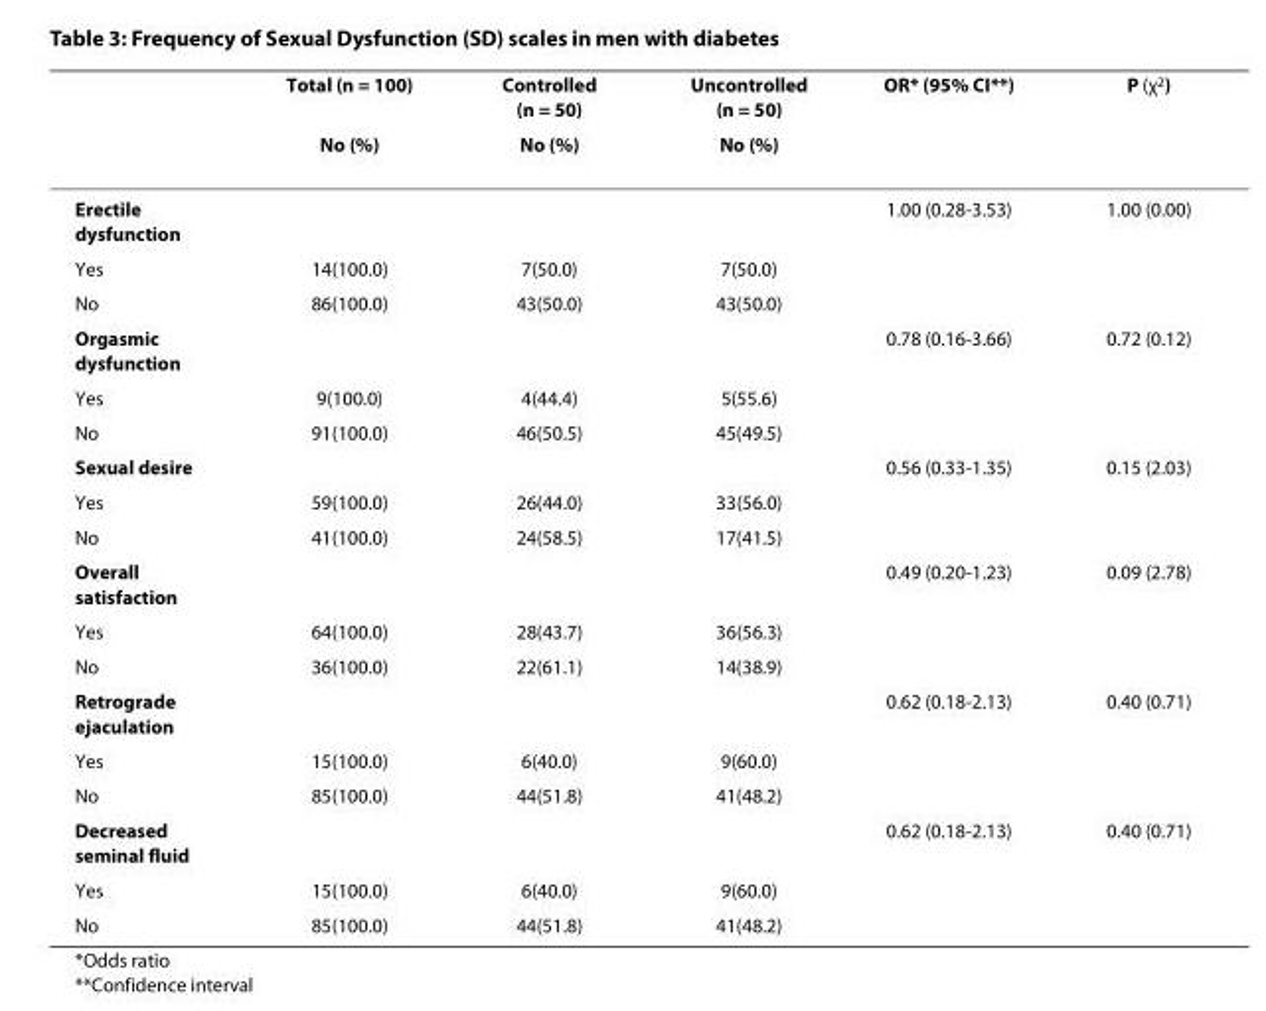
<table><thead><tr><td rowspan="2"></td><td rowspan="2">Total (n = 100) No (%)</td><td rowspan="2">Controlled (n = 50) No (%)</td><td rowspan="2">Uncontrolled (n = 50) No (%)</td><td rowspan="2">OR* (95% CI**)</td><td rowspan="2">P (χ<sup>2</sup>)</td></tr><tr></tr></thead><tbody><tr><td>Erectile dysfunction</td><td></td><td></td><td></td><td>1.00 (0.28-3.53)</td><td>1.00 (0.00)</td></tr><tr><td>Yes</td><td>14(100.0)</td><td>7(50.0)</td><td>7(50.0)</td><td></td><td></td></tr><tr><td>No</td><td>86(100.0)</td><td>43(50.0)</td><td>43(50.0)</td><td></td><td></td></tr><tr><td>Orgasmic dysfunction</td><td></td><td></td><td></td><td>0.78 (0.16-3.66)</td><td>0.72 (0.12)</td></tr><tr><td>Yes</td><td>9(100.0)</td><td>4(44.4)</td><td>5(55.6)</td><td></td><td></td></tr><tr><td>No</td><td>91(100.0)</td><td>46(50.5)</td><td>45(49.5)</td><td></td><td></td></tr><tr><td>Sexual desire</td><td></td><td></td><td></td><td>0.56 (0.33-1.35)</td><td>0.15 (2.03)</td></tr><tr><td>Yes</td><td>59(100.0)</td><td>26(44.0)</td><td>33(56.0)</td><td></td><td></td></tr><tr><td>No</td><td>41(100.0)</td><td>24(58.5)</td><td>17(41.5)</td><td></td><td></td></tr><tr><td>Overall satisfaction</td><td></td><td></td><td></td><td>0.49 (0.20-1.23)</td><td>0.09 (2.78)</td></tr><tr><td>Yes</td><td>64(100.0)</td><td>28(43.7)</td><td>36(56.3)</td><td></td><td></td></tr><tr><td>No</td><td>36(100.0)</td><td>22(61.1)</td><td>14(38.9)</td><td></td><td></td></tr><tr><td>Retrograde ejaculation</td><td></td><td></td><td></td><td>0.62 (0.18-2.13)</td><td>0.40 (0.71)</td></tr><tr><td>Yes</td><td>15(100.0)</td><td>6(40.0)</td><td>9(60.0)</td><td></td><td></td></tr><tr><td>No</td><td>85(100.0)</td><td>44(51.8)</td><td>41(48.2)</td><td></td><td></td></tr><tr><td>Decreased seminal fluid</td><td></td><td></td><td></td><td>0.62 (0.18-2.13)</td><td>0.40 (0.71)</td></tr><tr><td>Yes</td><td>15(100.0)</td><td>6(40.0)</td><td>9(60.0)</td><td></td><td></td></tr><tr><td>No</td><td>85(100.0)</td><td>44(51.8)</td><td>41(48.2)</td><td></td><td></td></tr></tbody></table>